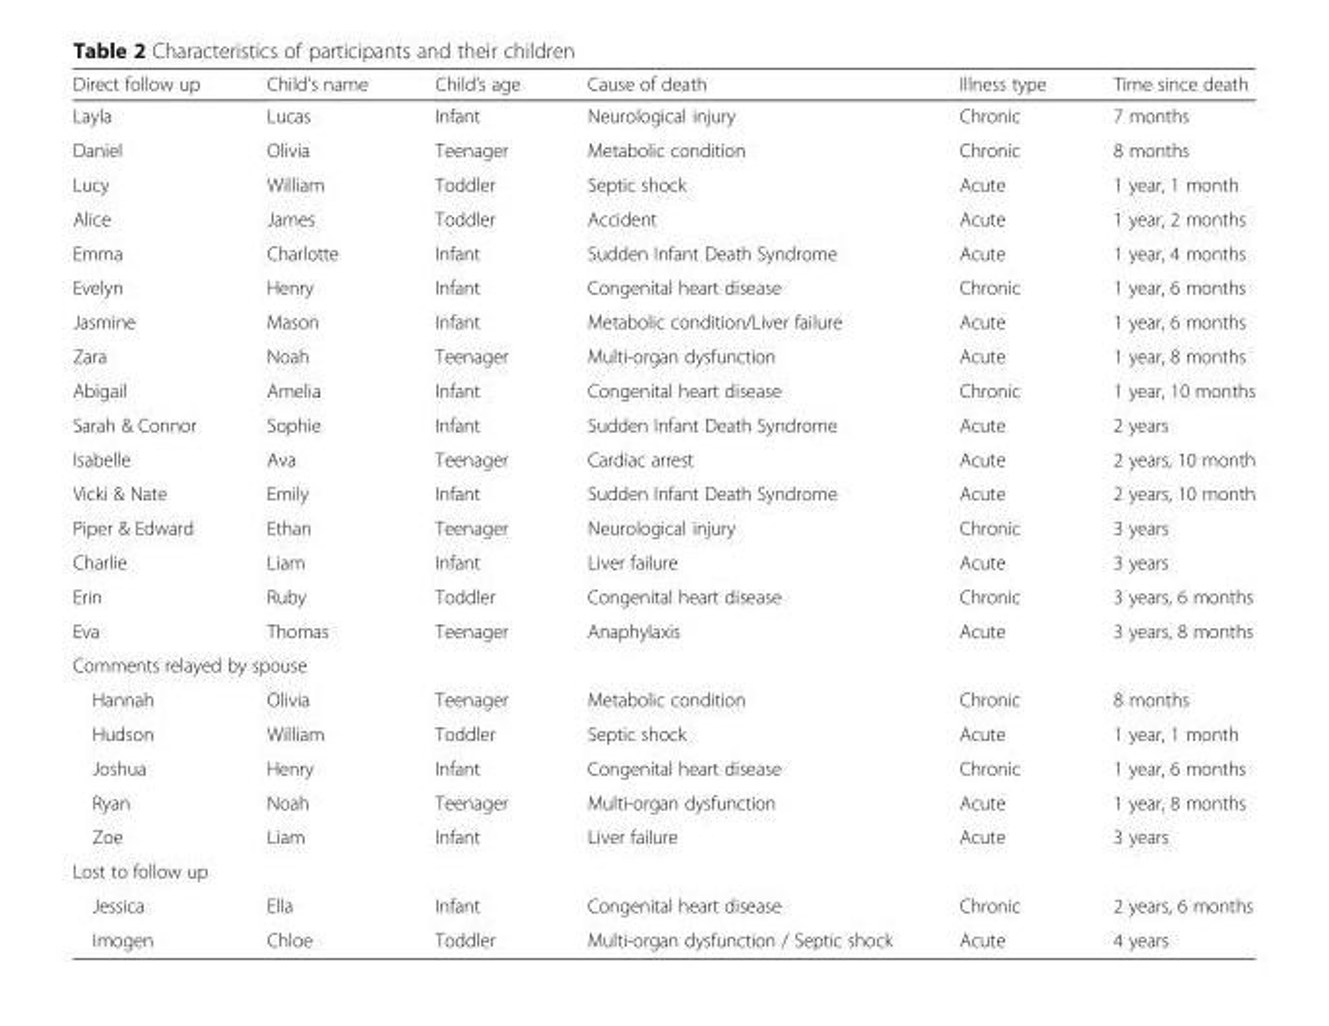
<table><thead><tr><td>Direct follow up</td><td>Child’s name</td><td>Child’s age</td><td>Cause of death</td><td>Illness type</td><td>Time since death</td></tr></thead><tbody><tr><td>Layla</td><td>Lucas</td><td>Infant</td><td>Neurological injury</td><td>Chronic</td><td>7 months</td></tr><tr><td>Daniel</td><td>Olivia</td><td>Teenager</td><td>Metabolic condition</td><td>Chronic</td><td>8 months</td></tr><tr><td>Lucy</td><td>William</td><td>Toddler</td><td>Septic shock</td><td>Acute</td><td>1 year, 1 month</td></tr><tr><td>Alice</td><td>James</td><td>Toddler</td><td>Accident</td><td>Acute</td><td>1 year, 2 months</td></tr><tr><td>Emma</td><td>Charlotte</td><td>Infant</td><td>Sudden Infant Death Syndrome</td><td>Acute</td><td>1 year, 4 months</td></tr><tr><td>Evelyn</td><td>Henry</td><td>Infant</td><td>Congenital heart disease</td><td>Chronic</td><td>1 year, 6 months</td></tr><tr><td>Jasmine</td><td>Mason</td><td>Infant</td><td>Metabolic condition/Liver failure</td><td>Acute</td><td>1 year, 6 months</td></tr><tr><td>Zara</td><td>Noah</td><td>Teenager</td><td>Multi-organ dysfunction</td><td>Acute</td><td>1 year, 8 months</td></tr><tr><td>Abigail</td><td>Amelia</td><td>Infant</td><td>Congenital heart disease</td><td>Chronic</td><td>1 year, 10 months</td></tr><tr><td>Sarah &amp; Connor</td><td>Sophie</td><td>Infant</td><td>Sudden Infant Death Syndrome</td><td>Acute</td><td>2 years</td></tr><tr><td>Isabelle</td><td>Ava</td><td>Teenager</td><td>Cardiac arrest</td><td>Acute</td><td>2 years, 10 month</td></tr><tr><td>Vicki &amp; Nate</td><td>Emily</td><td>Infant</td><td>Sudden Infant Death Syndrome</td><td>Acute</td><td>2 years, 10 month</td></tr><tr><td>Piper &amp; Edward</td><td>Ethan</td><td>Teenager</td><td>Neurological injury</td><td>Chronic</td><td>3 years</td></tr><tr><td>Charlie</td><td>Liam</td><td>Infant</td><td>Liver failure</td><td>Acute</td><td>3 years</td></tr><tr><td>Erin</td><td>Ruby</td><td>Toddler</td><td>Congenital heart disease</td><td>Chronic</td><td>3 years, 6 months</td></tr><tr><td>Eva</td><td>Thomas</td><td>Teenager</td><td>Anaphylaxis</td><td>Acute</td><td>3 years, 8 months</td></tr><tr><td colspan="6">Comments relayed by spouse</td></tr><tr><td>Hannah</td><td>Olivia</td><td>Teenager</td><td>Metabolic condition</td><td>Chronic</td><td>8 months</td></tr><tr><td>Hudson</td><td>William</td><td>Toddler</td><td>Septic shock</td><td>Acute</td><td>1 year, 1 month</td></tr><tr><td>Joshua</td><td>Henry</td><td>Infant</td><td>Congenital heart disease</td><td>Chronic</td><td>1 year, 6 months</td></tr><tr><td>Ryan</td><td>Noah</td><td>Teenager</td><td>Multi-organ dysfunction</td><td>Acute</td><td>1 year, 8 months</td></tr><tr><td>Zoe</td><td>Liam</td><td>Infant</td><td>Liver failure</td><td>Acute</td><td>3 years</td></tr><tr><td colspan="6">Lost to follow up</td></tr><tr><td>Jessica</td><td>Ella</td><td>Infant</td><td>Congenital heart disease</td><td>Chronic</td><td>2 years, 6 months</td></tr><tr><td>Imogen</td><td>Chloe</td><td>Toddler</td><td>Multi-organ dysfunction / Septic shock</td><td>Acute</td><td>4 years</td></tr></tbody></table>